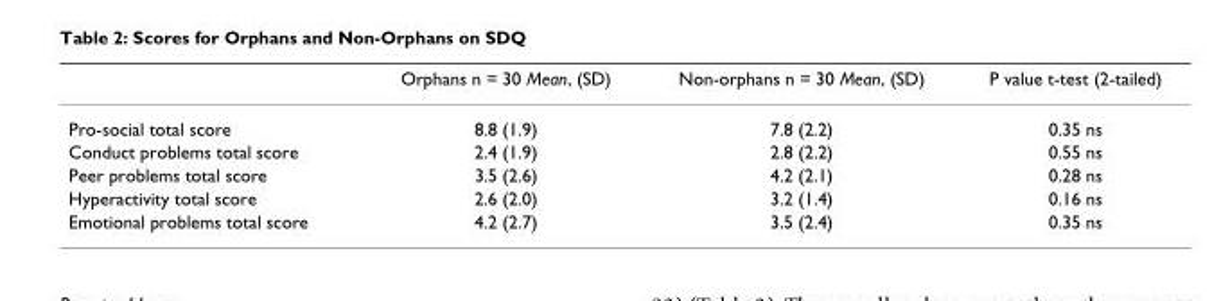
<table><thead><tr><td></td><td>Orphans n = 30 Mean, (SD)</td><td>Non-orphans n = 30 Mean, (SD)</td><td>P value t-test (2-tailed)</td></tr></thead><tbody><tr><td>Pro-social total score</td><td>8.8 (1.9)</td><td>7.8 (2.2)</td><td>0.35 ns</td></tr><tr><td>Conduct problems total score</td><td>2.4 (1.9)</td><td>2.8 (2.2)</td><td>0.55 ns</td></tr><tr><td>Peer problems total score</td><td>3.5 (2.6)</td><td>4.2 (2.1)</td><td>0.28 ns</td></tr><tr><td>Hyperactivity total score</td><td>2.6 (2.0)</td><td>3.2 (1.4)</td><td>0.16 ns</td></tr><tr><td>Emotional problems total score</td><td>4.2 (2.7)</td><td>3.5 (2.4)</td><td>0.35 ns</td></tr></tbody></table>